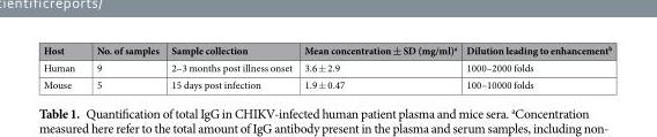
<table><thead><tr><td>Host</td><td>No. of samples</td><td>Sample collection</td><td>Mean concentration ± SD (mg/ml)<sup>a</sup></td><td>Dilution leading to enhancement<sup>b</sup></td></tr></thead><tbody><tr><td>Human</td><td>9</td><td>2–3 months post illness onset</td><td>3.6 ± 2.9</td><td>1000–2000 folds</td></tr><tr><td>Mouse</td><td>5</td><td>15 days post infection</td><td>1.9 ± 0.47</td><td>100–10000 folds</td></tr></tbody></table>